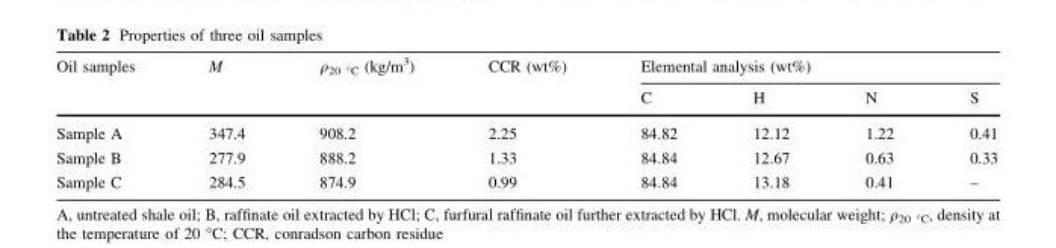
<table><thead><tr><td rowspan="2">Oil samples</td><td rowspan="2">M</td><td rowspan="2">ρ<sub>20 °C</sub> (kg/m<sup>3</sup>)</td><td rowspan="2">CCR (wt%)</td><td colspan="4">Elemental analysis (wt%)</td></tr><tr><td>C</td><td>H</td><td>N</td><td>S</td></tr></thead><tbody><tr><td>Sample A</td><td>347.4</td><td>908.2</td><td>2.25</td><td>84.82</td><td>12.12</td><td>1.22</td><td>0.41</td></tr><tr><td>Sample B</td><td>277.9</td><td>888.2</td><td>1.33</td><td>84.84</td><td>12.67</td><td>0.63</td><td>0.33</td></tr><tr><td>Sample C</td><td>284.5</td><td>874.9</td><td>0.99</td><td>84.84</td><td>13.18</td><td>0.41</td><td>–</td></tr></tbody></table>